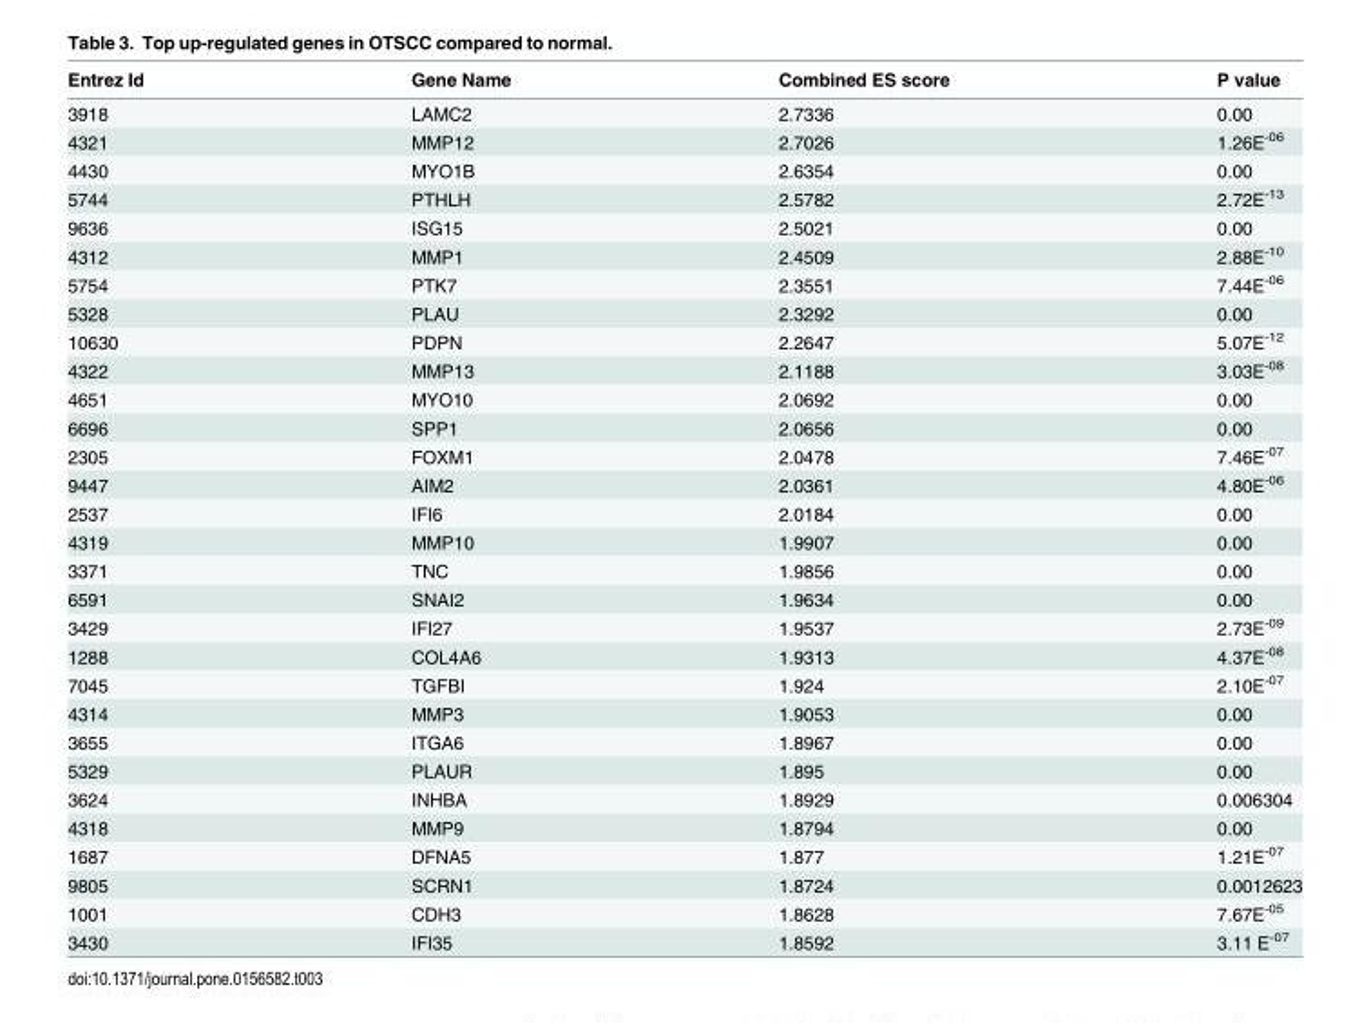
<table><thead><tr><td>Entrez Id</td><td>Gene Name</td><td>Combined ES score</td><td>P value</td></tr></thead><tbody><tr><td>3918</td><td>LAMC2</td><td>2.7336</td><td>0.00</td></tr><tr><td>4321</td><td>MMP12</td><td>2.7026</td><td>1.26E<sup>-06</sup></td></tr><tr><td>4430</td><td>MYO1B</td><td>2.6354</td><td>0.00</td></tr><tr><td>5744</td><td>PTHLH</td><td>2.5782</td><td>2.72E<sup>-13</sup></td></tr><tr><td>9636</td><td>ISG15</td><td>2.5021</td><td>0.00</td></tr><tr><td>4312</td><td>MMP1</td><td>2.4509</td><td>2.88E<sup>-10</sup></td></tr><tr><td>5754</td><td>PTK7</td><td>2.3551</td><td>7.44E<sup>-06</sup></td></tr><tr><td>5328</td><td>PLAU</td><td>2.3292</td><td>0.00</td></tr><tr><td>10630</td><td>PDPN</td><td>2.2647</td><td>5.07E<sup>-12</sup></td></tr><tr><td>4322</td><td>MMP13</td><td>2.1188</td><td>3.03E<sup>-08</sup></td></tr><tr><td>4651</td><td>MYO10</td><td>2.0692</td><td>0.00</td></tr><tr><td>6696</td><td>SPP1</td><td>2.0656</td><td>0.00</td></tr><tr><td>2305</td><td>FOXM1</td><td>2.0478</td><td>7.46E<sup>-07</sup></td></tr><tr><td>9447</td><td>AIM2</td><td>2.0361</td><td>4.80E<sup>-06</sup></td></tr><tr><td>2537</td><td>IFI6</td><td>2.0184</td><td>0.00</td></tr><tr><td>4319</td><td>MMP10</td><td>1.9907</td><td>0.00</td></tr><tr><td>3371</td><td>TNC</td><td>1.9856</td><td>0.00</td></tr><tr><td>6591</td><td>SNAI2</td><td>1.9634</td><td>0.00</td></tr><tr><td>3429</td><td>IFI27</td><td>1.9537</td><td>2.73E<sup>-09</sup></td></tr><tr><td>1288</td><td>COL4A6</td><td>1.9313</td><td>4.37E<sup>-08</sup></td></tr><tr><td>7045</td><td>TGFBI</td><td>1.924</td><td>2.10E<sup>-07</sup></td></tr><tr><td>4314</td><td>MMP3</td><td>1.9053</td><td>0.00</td></tr><tr><td>3655</td><td>ITGA6</td><td>1.8967</td><td>0.00</td></tr><tr><td>5329</td><td>PLAUR</td><td>1.895</td><td>0.00</td></tr><tr><td>3624</td><td>INHBA</td><td>1.8929</td><td>0.006304</td></tr><tr><td>4318</td><td>MMP9</td><td>1.8794</td><td>0.00</td></tr><tr><td>1687</td><td>DFNA5</td><td>1.877</td><td>1.21E<sup>-07</sup></td></tr><tr><td>9805</td><td>SCRN1</td><td>1.8724</td><td>0.0012623</td></tr><tr><td>1001</td><td>CDH3</td><td>1.8628</td><td>7.67E<sup>-05</sup></td></tr><tr><td>3430</td><td>IFI35</td><td>1.8592</td><td>3.11 E<sup>-07</sup></td></tr></tbody></table>